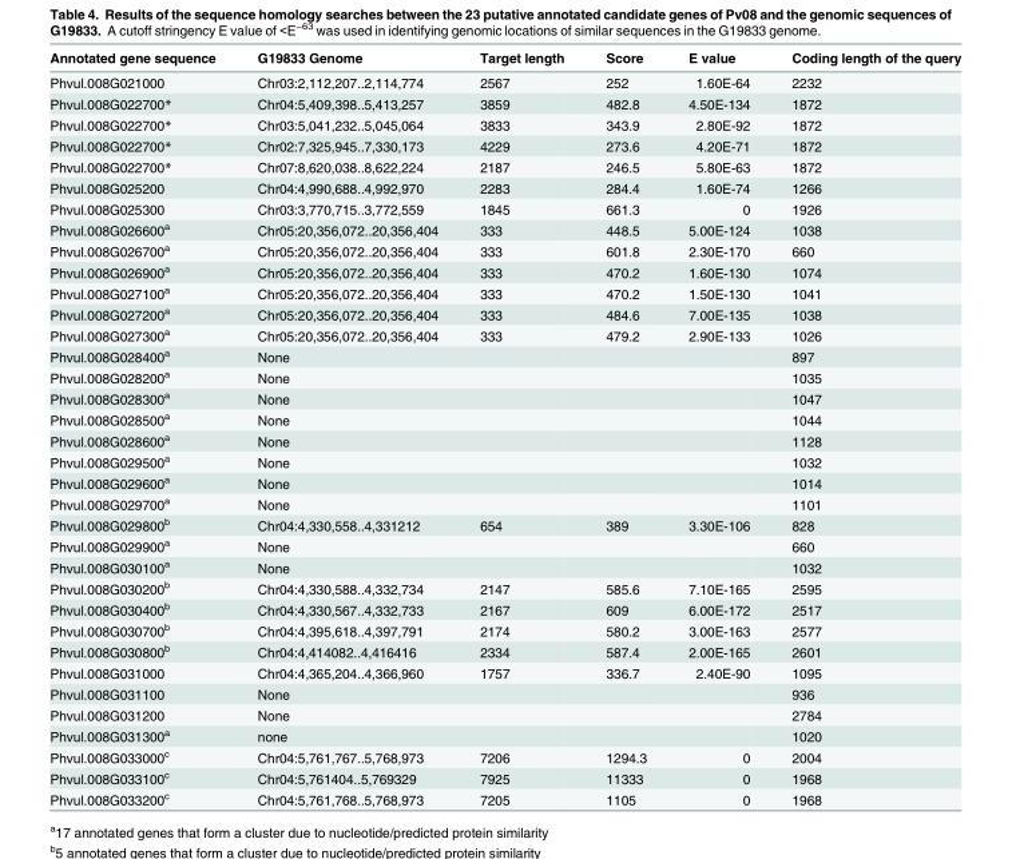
<table><thead><tr><td>Annotated gene sequence</td><td>G19833 Genome</td><td>Target length</td><td>Score</td><td>E value</td><td>Coding length of the query</td></tr></thead><tbody><tr><td>Phvul.008G021000</td><td>Chr03:2,112,207..2,114,774</td><td>2567</td><td>252</td><td>1.60E-64</td><td>2232</td></tr><tr><td>Phvul.008G022700*</td><td>Chr04:5,409,398..5,413,257</td><td>3859</td><td>482.8</td><td>4.50E-134</td><td>1872</td></tr><tr><td>Phvul.008G022700*</td><td>Chr03:5,041,232..5,045,064</td><td>3833</td><td>343.9</td><td>2.80E-92</td><td>1872</td></tr><tr><td>Phvul.008G022700*</td><td>Chr02:7,325,945..7,330,173</td><td>4229</td><td>273.6</td><td>4.20E-71</td><td>1872</td></tr><tr><td>Phvul.008G022700*</td><td>Chr07:8,620,038..8,622,224</td><td>2187</td><td>246.5</td><td>5.80E-63</td><td>1872</td></tr><tr><td>Phvul.008G025200</td><td>Chr04:4,990,688..4,992,970</td><td>2283</td><td>284.4</td><td>1.60E-74</td><td>1266</td></tr><tr><td>Phvul.008G025300</td><td>Chr03:3,770,715..3,772,559</td><td>1845</td><td>661.3</td><td>0</td><td>1926</td></tr><tr><td>Phvul.008G026600<sup>a</sup></td><td>Chr05:20,356,072..20,356,404</td><td>333</td><td>448.5</td><td>5.00E-124</td><td>1038</td></tr><tr><td>Phvul.008G026700<sup>a</sup></td><td>Chr05:20,356,072..20,356,404</td><td>333</td><td>601.8</td><td>2.30E-170</td><td>660</td></tr><tr><td>Phvul.008G026900<sup>a</sup></td><td>Chr05:20,356,072..20,356,404</td><td>333</td><td>470.2</td><td>1.60E-130</td><td>1074</td></tr><tr><td>Phvul.008G027100<sup>a</sup></td><td>Chr05:20,356,072..20,356,404</td><td>333</td><td>470.2</td><td>1.50E-130</td><td>1041</td></tr><tr><td>Phvul.008G027200<sup>a</sup></td><td>Chr05:20,356,072..20,356,404</td><td>333</td><td>484.6</td><td>7.00E-135</td><td>1038</td></tr><tr><td>Phvul.008G027300<sup>a</sup></td><td>Chr05:20,356,072..20,356,404</td><td>333</td><td>479.2</td><td>2.90E-133</td><td>1026</td></tr><tr><td>Phvul.008G028400<sup>a</sup></td><td>None</td><td></td><td></td><td></td><td>897</td></tr><tr><td>Phvul.008G028200<sup>a</sup></td><td>None</td><td></td><td></td><td></td><td>1035</td></tr><tr><td>Phvul.008G028300<sup>a</sup></td><td>None</td><td></td><td></td><td></td><td>1047</td></tr><tr><td>Phvul.008G028500<sup>a</sup></td><td>None</td><td></td><td></td><td></td><td>1044</td></tr><tr><td>Phvul.008G028600<sup>a</sup></td><td>None</td><td></td><td></td><td></td><td>1128</td></tr><tr><td>Phvul.008G029500<sup>a</sup></td><td>None</td><td></td><td></td><td></td><td>1032</td></tr><tr><td>Phvul.008G029600<sup>a</sup></td><td>None</td><td></td><td></td><td></td><td>1014</td></tr><tr><td>Phvul.008G029700<sup>a</sup></td><td>None</td><td></td><td></td><td></td><td>1101</td></tr><tr><td>Phvul.008G029800<sup>b</sup></td><td>Chr04:4,330,558..4,331212</td><td>654</td><td>389</td><td>3.30E-106</td><td>828</td></tr><tr><td>Phvul.008G029900<sup>a</sup></td><td>None</td><td></td><td></td><td></td><td>660</td></tr><tr><td>Phvul.008G030100<sup>a</sup></td><td>None</td><td></td><td></td><td></td><td>1032</td></tr><tr><td>Phvul.008G030200<sup>b</sup></td><td>Chr04:4,330,588..4,332,734</td><td>2147</td><td>585.6</td><td>7.10E-165</td><td>2595</td></tr><tr><td>Phvul.008G030400<sup>b</sup></td><td>Chr04:4,330,567..4,332,733</td><td>2167</td><td>609</td><td>6.00E-172</td><td>2517</td></tr><tr><td>Phvul.008G030700<sup>b</sup></td><td>Chr04:4,395,618..4,397,791</td><td>2174</td><td>580.2</td><td>3.00E-163</td><td>2577</td></tr><tr><td>Phvul.008G030800<sup>b</sup></td><td>Chr04:4,414082..4,416416</td><td>2334</td><td>587.4</td><td>2.00E-165</td><td>2601</td></tr><tr><td>Phvul.008G031000</td><td>Chr04:4,365,204..4,366,960</td><td>1757</td><td>336.7</td><td>2.40E-90</td><td>1095</td></tr><tr><td>Phvul.008G031100</td><td>None</td><td></td><td></td><td></td><td>936</td></tr><tr><td>Phvul.008G031200</td><td>None</td><td></td><td></td><td></td><td>2784</td></tr><tr><td>Phvul.008G031300<sup>a</sup></td><td>none</td><td></td><td></td><td></td><td>1020</td></tr><tr><td>Phvul.008G033000<sup>c</sup></td><td>Chr04:5,761,767..5,768,973</td><td>7206</td><td>1294.3</td><td>0</td><td>2004</td></tr><tr><td>Phvul.008G033100<sup>c</sup></td><td>Chr04:5,761404..5,769329</td><td>7925</td><td>11333</td><td>0</td><td>1968</td></tr><tr><td>Phvul.008G033200<sup>c</sup></td><td>Chr04:5,761,768..5,768,973</td><td>7205</td><td>1105</td><td>0</td><td>1968</td></tr></tbody></table>